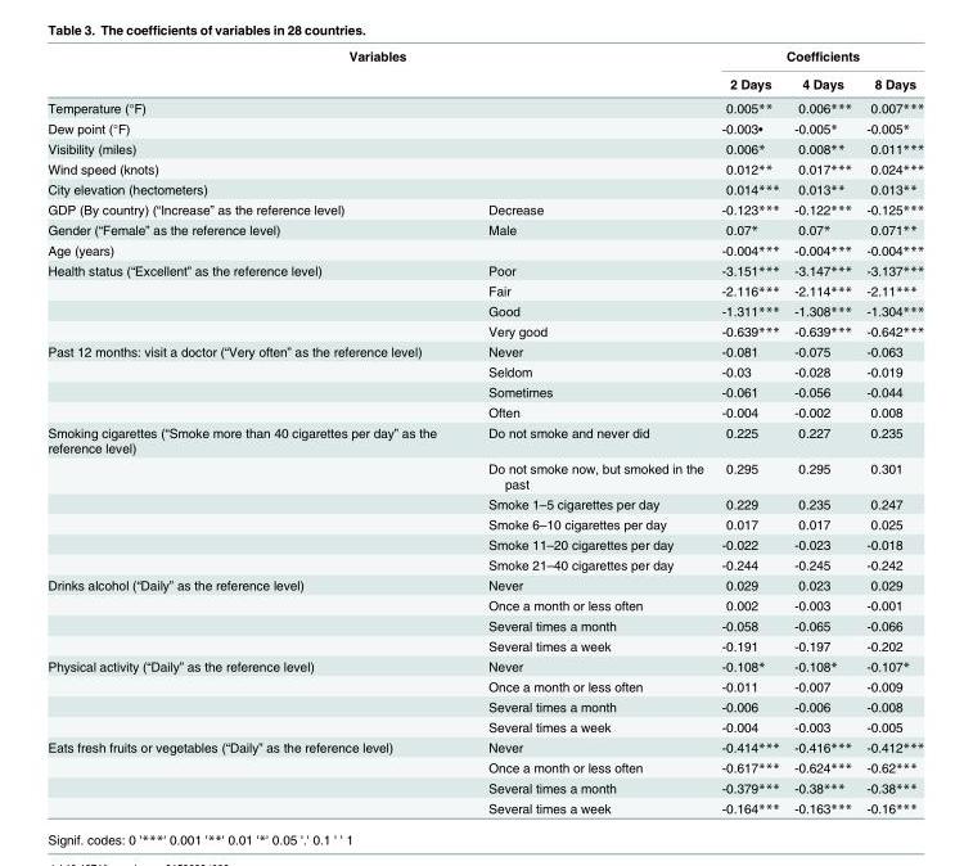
<table><thead><tr><td rowspan="2" colspan="2">Variables</td><td colspan="3">Coefficients</td></tr><tr><td rowspan="2">2 Days 0.005**</td><td rowspan="2">4 Days 0.006***</td><td rowspan="2">8 Days 0.007***</td></tr><tr><td>Temperature (°F)</td><td></td></tr></thead><tbody><tr><td>Dew point (°F)</td><td></td><td>-0.003•</td><td>-0.005*</td><td>-0.005*</td></tr><tr><td>Visibility (miles)</td><td></td><td>0.006*</td><td>0.008**</td><td>0.011***</td></tr><tr><td>Wind speed (knots)</td><td></td><td>0.012**</td><td>0.017***</td><td>0.024***</td></tr><tr><td>City elevation (hectometers)</td><td></td><td>0.014***</td><td>0.013**</td><td>0.013**</td></tr><tr><td>GDP (By country) (“Increase” as the reference level)</td><td>Decrease</td><td>-0.123***</td><td>-0.122***</td><td>-0.125***</td></tr><tr><td>Gender (“Female” as the reference level)</td><td>Male</td><td>0.07*</td><td>0.07*</td><td>0.071**</td></tr><tr><td>Age (years)</td><td></td><td>-0.004***</td><td>-0.004***</td><td>-0.004***</td></tr><tr><td rowspan="4">Health status (“Excellent” as the reference level)</td><td>Poor</td><td>-3.151***</td><td>-3.147***</td><td>-3.137***</td></tr><tr><td>Fair</td><td>-2.116***</td><td>-2.114***</td><td>-2.11***</td></tr><tr><td>Good</td><td>-1.311***</td><td>-1.308***</td><td>-1.304***</td></tr><tr><td>Very good</td><td>-0.639***</td><td>-0.639***</td><td>-0.642***</td></tr><tr><td rowspan="4">Past 12 months: visit a doctor (“Very often” as the reference level)</td><td>Never</td><td>-0.081</td><td>-0.075</td><td>-0.063</td></tr><tr><td>Seldom</td><td>-0.03</td><td>-0.028</td><td>-0.019</td></tr><tr><td>Sometimes</td><td>-0.061</td><td>-0.056</td><td>-0.044</td></tr><tr><td>Often</td><td>-0.004</td><td>-0.002</td><td>0.008</td></tr><tr><td rowspan="6">Smoking cigarettes (“Smoke more than 40 cigarettes per day” as the reference level)</td><td>Do not smoke and never did</td><td>0.225</td><td>0.227</td><td>0.235</td></tr><tr><td>Do not smoke now, but smoked in the past</td><td>0.295</td><td>0.295</td><td>0.301</td></tr><tr><td>Smoke 1–5 cigarettes per day</td><td>0.229</td><td>0.235</td><td>0.247</td></tr><tr><td>Smoke 6–10 cigarettes per day</td><td>0.017</td><td>0.017</td><td>0.025</td></tr><tr><td>Smoke 11–20 cigarettes per day</td><td>-0.022</td><td>-0.023</td><td>-0.018</td></tr><tr><td>Smoke 21–40 cigarettes per day</td><td>-0.244</td><td>-0.245</td><td>-0.242</td></tr><tr><td rowspan="4">Drinks alcohol (“Daily” as the reference level)</td><td>Never</td><td>0.029</td><td>0.023</td><td>0.029</td></tr><tr><td>Once a month or less often</td><td>0.002</td><td>-0.003</td><td>-0.001</td></tr><tr><td>Several times a month</td><td>-0.058</td><td>-0.065</td><td>-0.066</td></tr><tr><td>Several times a week</td><td>-0.191</td><td>-0.197</td><td>-0.202</td></tr><tr><td rowspan="4">Physical activity (“Daily” as the reference level)</td><td>Never</td><td>-0.108*</td><td>-0.108*</td><td>-0.107*</td></tr><tr><td>Once a month or less often</td><td>-0.011</td><td>-0.007</td><td>-0.009</td></tr><tr><td>Several times a month</td><td>-0.006</td><td>-0.006</td><td>-0.008</td></tr><tr><td>Several times a week</td><td>-0.004</td><td>-0.003</td><td>-0.005</td></tr><tr><td rowspan="4">Eats fresh fruits or vegetables (“Daily” as the reference level)</td><td>Never</td><td>-0.414***</td><td>-0.416***</td><td>-0.412***</td></tr><tr><td>Once a month or less often</td><td>-0.617***</td><td>-0.624***</td><td>-0.62***</td></tr><tr><td>Several times a month</td><td>-0.379***</td><td>-0.38***</td><td>-0.38***</td></tr><tr><td>Several times a week</td><td>-0.164***</td><td>-0.163***</td><td>-0.16***</td></tr></tbody></table>